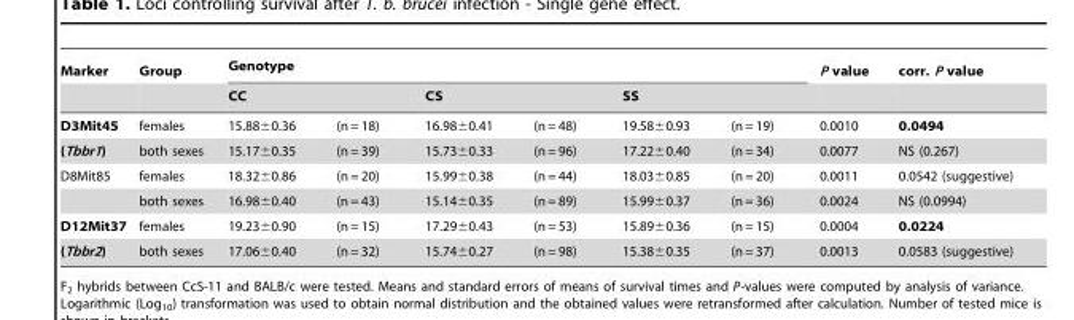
<table><thead><tr><td rowspan="3">Marker D3Mit45</td><td rowspan="3">Group females</td><td colspan="6">Genotype</td><td rowspan="3">P value 0.0010</td><td rowspan="3">corr. P value 0.0494</td></tr><tr><td colspan="2">CC</td><td colspan="2">CS</td><td colspan="2">SS</td></tr><tr><td>15.88±0.36</td><td>(n = 18)</td><td>16.98±0.41</td><td>(n = 48)</td><td>19.58±0.93</td><td>(n = 19)</td></tr></thead><tbody><tr><td>(Tbbr1)</td><td>both sexes</td><td>15.17±0.35</td><td>(n = 39)</td><td>15.73±0.33</td><td>(n = 96)</td><td>17.22±0.40</td><td>(n = 34)</td><td>0.0077</td><td>NS (0.267)</td></tr><tr><td rowspan="2">D8Mit85</td><td>females</td><td>18.32±0.86</td><td>(n = 20)</td><td>15.99±0.38</td><td>(n = 44)</td><td>18.03±0.85</td><td>(n = 20)</td><td>0.0011</td><td>0.0542 (suggestive)</td></tr><tr><td>both sexes</td><td>16.98±0.40</td><td>(n = 43)</td><td>15.14±0.35</td><td>(n = 89)</td><td>15.99±0.37</td><td>(n = 36)</td><td>0.0024</td><td>NS (0.0994)</td></tr><tr><td>D12Mit37</td><td>females</td><td>19.23±0.90</td><td>(n = 15)</td><td>17.29±0.43</td><td>(n = 53)</td><td>15.89±0.36</td><td>(n = 15)</td><td>0.0004</td><td>0.0224</td></tr><tr><td>(Tbbr2)</td><td>both sexes</td><td>17.06±0.40</td><td>(n = 32)</td><td>15.74±0.27</td><td>(n = 98)</td><td>15.38±0.35</td><td>(n = 37)</td><td>0.0013</td><td>0.0583 (suggestive)</td></tr></tbody></table>